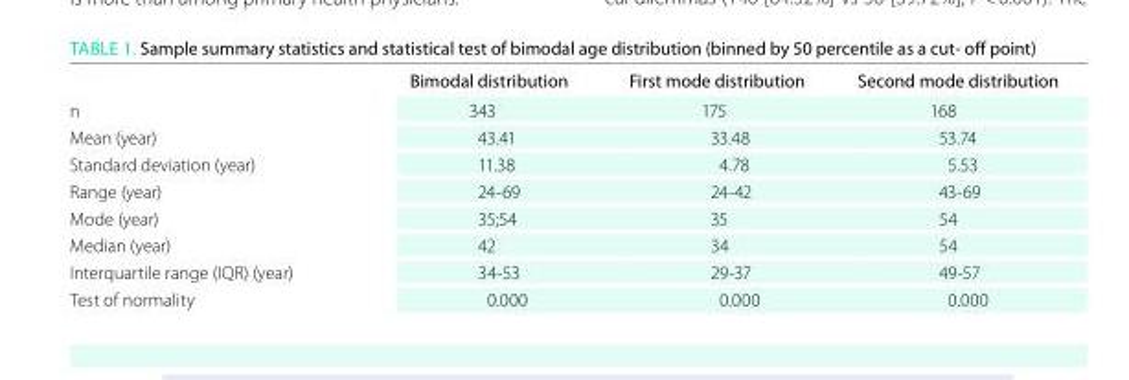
<table><thead><tr><td></td><td>bimodal distribution</td><td>First mode distribution</td><td>Second mode distribution</td></tr></thead><tbody><tr><td>n</td><td>343</td><td>175</td><td>168</td></tr><tr><td>Mean (year)</td><td>43.41</td><td>33.48</td><td>53.74</td></tr><tr><td>Standard deviation (year)</td><td>11.38</td><td>4.78</td><td>5.53</td></tr><tr><td>Range (year)</td><td>24-69</td><td>24-42</td><td>43-69</td></tr><tr><td>Mode (year)</td><td>35;54</td><td>35</td><td>54</td></tr><tr><td>Median (year)</td><td>42</td><td>34</td><td>54</td></tr><tr><td>Interquartile range (IQR) (year)</td><td>34-53</td><td>29-37</td><td>49-57</td></tr><tr><td>Test of normality</td><td>0.000</td><td>0.000</td><td>0.000</td></tr></tbody></table>